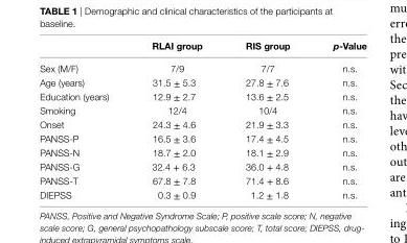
<table><thead><tr><td></td><td>rlai group</td><td>ris group</td><td>p-Value</td></tr></thead><tbody><tr><td>Sex (M/F)</td><td>7/9</td><td>7/7</td><td>n.s.</td></tr><tr><td>Age (years)</td><td>31.5 ± 5.3</td><td>27.8 ± 7.6</td><td>n.s.</td></tr><tr><td>Education (years)</td><td>12.9 ± 2.7</td><td>13.6 ± 2.5</td><td>n.s.</td></tr><tr><td>Smoking</td><td>12/4</td><td>10/4</td><td>n.s.</td></tr><tr><td>Onset</td><td>24.3 ± 4.6</td><td>21.9 ± 3.3</td><td>n.s.</td></tr><tr><td>PANSS-P</td><td>16.5 ± 3.6</td><td>17.4 ± 4.5</td><td>n.s.</td></tr><tr><td>PANSS-N</td><td>18.7 ± 2.0</td><td>18.1 ± 2.9</td><td>n.s.</td></tr><tr><td>PANSS-G</td><td>32.4 + 6.3</td><td>36.0 + 4.8</td><td>n.s.</td></tr><tr><td>PANSS-T</td><td>67.8 ± 7.8</td><td>71.4 + 8.6</td><td>n.s.</td></tr><tr><td>DIEPSS</td><td>0.3 ± 0.9</td><td>1.2 ± 1.8</td><td>n.s.</td></tr></tbody></table>